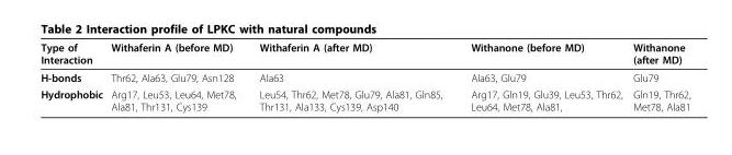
<table><thead><tr><td>Type of Interaction</td><td>Withaferin A (before MD)</td><td>Withaferin A (after MD)</td><td>Withanone (before MD)</td><td>Withanone (after MD)</td></tr></thead><tbody><tr><td>H-bonds</td><td>Thr62, Ala63, Glu79, Asn128</td><td>Ala63</td><td>Ala63, Glu79</td><td>Glu79</td></tr><tr><td>Hydrophobic</td><td>Arg17, Leu53, Leu64, Met78, Ala81, Thr131, Cys139</td><td>Leu54, Thr62, Met78, Glu79, Ala81, Gln85, Thr131, Ala133, Cys139, Asp140</td><td>Arg17, Gln19, Glu39, Leu53, Thr62, Leu64, Met78, Ala81,</td><td>Gln19, Thr62, Met78, Ala81</td></tr></tbody></table>